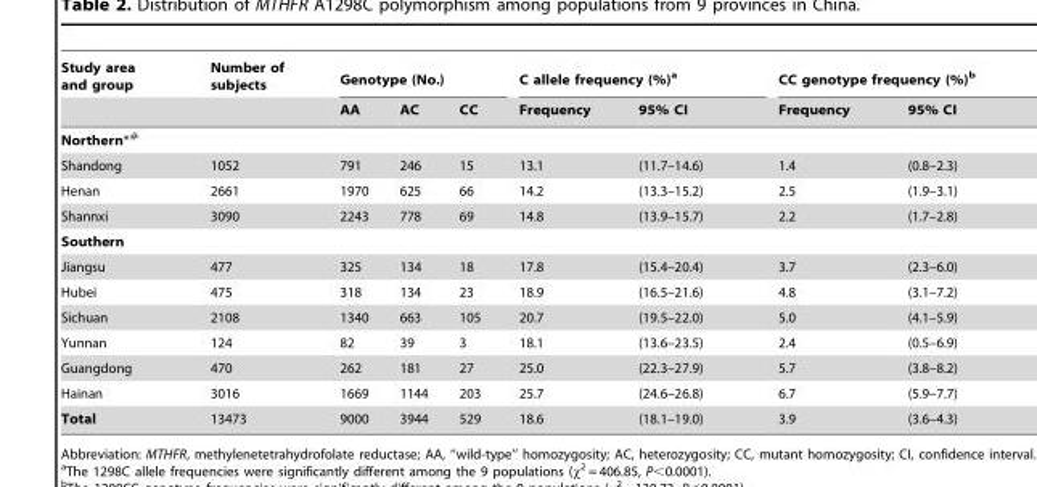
<table><thead><tr><td rowspan="2">Study area and group</td><td rowspan="2">Number of subjects</td><td colspan="3">Genotype (No.)</td><td colspan="2">C allele frequency (%)<sup>a</sup></td><td colspan="2">CC genotype frequency (%)<sup>b</sup></td></tr><tr><td>AA</td><td>AC</td><td>CC</td><td>Frequency</td><td>95% CI</td><td>Frequency</td><td>95% CI</td></tr></thead><tbody><tr><td colspan="9">Northern*#</td></tr><tr><td>Shandong</td><td>1052</td><td>791</td><td>246</td><td>15</td><td>13.1</td><td>(11.7–14.6)</td><td>1.4</td><td>(0.8–2.3)</td></tr><tr><td>Henan</td><td>2661</td><td>1970</td><td>625</td><td>66</td><td>14.2</td><td>(13.3–15.2)</td><td>2.5</td><td>(1.9–3.1)</td></tr><tr><td>Shannxi</td><td>3090</td><td>2243</td><td>778</td><td>69</td><td>14.8</td><td>(13.9–15.7)</td><td>2.2</td><td>(1.7–2.8)</td></tr><tr><td colspan="9">Southern</td></tr><tr><td>Jiangsu</td><td>477</td><td>325</td><td>134</td><td>18</td><td>17.8</td><td>(15.4–20.4)</td><td>3.7</td><td>(2.3–6.0)</td></tr><tr><td>Hubei</td><td>475</td><td>318</td><td>134</td><td>23</td><td>18.9</td><td>(16.5–21.6)</td><td>4.8</td><td>(3.1–7.2)</td></tr><tr><td>Sichuan</td><td>2108</td><td>1340</td><td>663</td><td>105</td><td>20.7</td><td>(19.5–22.0)</td><td>5.0</td><td>(4.1–5.9)</td></tr><tr><td>Yunnan</td><td>124</td><td>82</td><td>39</td><td>3</td><td>18.1</td><td>(13.6–23.5)</td><td>2.4</td><td>(0.5–6.9)</td></tr><tr><td>Guangdong</td><td>470</td><td>262</td><td>181</td><td>27</td><td>25.0</td><td>(22.3–27.9)</td><td>5.7</td><td>(3.8–8.2)</td></tr><tr><td>Hainan</td><td>3016</td><td>1669</td><td>1144</td><td>203</td><td>25.7</td><td>(24.6–26.8)</td><td>6.7</td><td>(5.9–7.7)</td></tr><tr><td>Total</td><td>13473</td><td>9000</td><td>3944</td><td>529</td><td>18.6</td><td>(18.1–19.0)</td><td>3.9</td><td>(3.6–4.3)</td></tr></tbody></table>